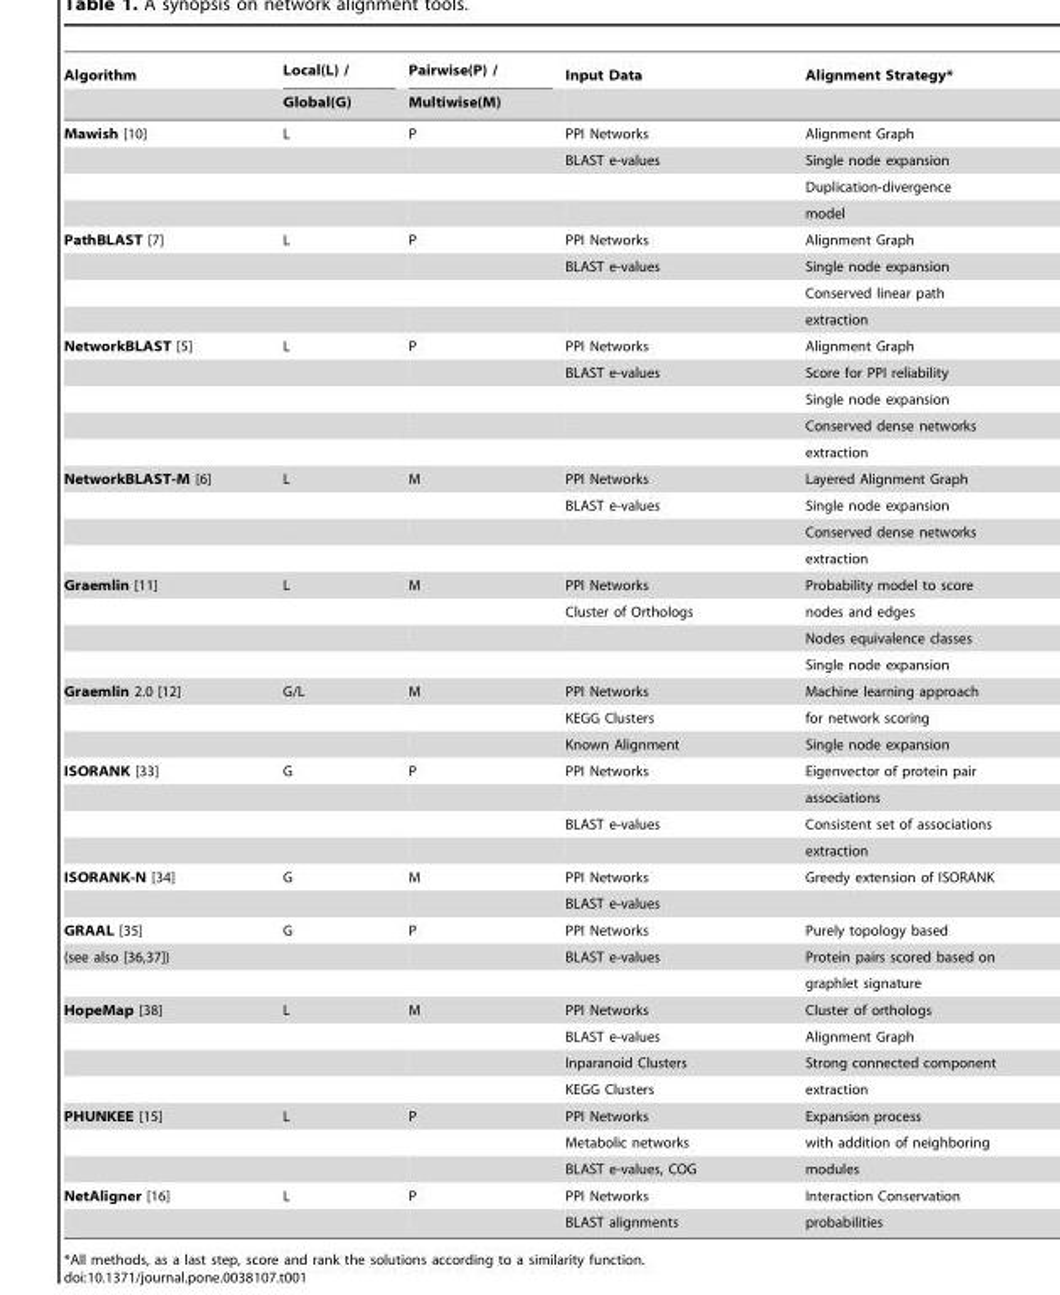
<table><thead><tr><td rowspan="2">Algorithm</td><td rowspan="2">Local(L) / Global(G)</td><td rowspan="2">Pairwise(P) / Multiwise(M)</td><td rowspan="2">Input Data</td><td rowspan="2">Alignment Strategy*</td></tr><tr></tr></thead><tbody><tr><td rowspan="4">Mawish [10]</td><td>L</td><td>P</td><td>PPI Networks</td><td>Alignment Graph</td></tr><tr><td></td><td></td><td>BLAST e-values</td><td>Single node expansion</td></tr><tr><td></td><td></td><td></td><td>Duplication-divergence</td></tr><tr><td></td><td></td><td></td><td>model</td></tr><tr><td rowspan="4">PathBLAST [7]</td><td>L</td><td>P</td><td>PPI Networks</td><td>Alignment Graph</td></tr><tr><td></td><td></td><td>BLAST e-values</td><td>Single node expansion</td></tr><tr><td></td><td></td><td></td><td>Conserved linear path</td></tr><tr><td></td><td></td><td></td><td>extraction</td></tr><tr><td rowspan="5">NetworkBLAST [5]</td><td>L</td><td>P</td><td>PPI Networks</td><td>Alignment Graph</td></tr><tr><td></td><td></td><td>BLAST e-values</td><td>Score for PPI reliability</td></tr><tr><td></td><td></td><td></td><td>Single node expansion</td></tr><tr><td></td><td></td><td></td><td>Conserved dense networks</td></tr><tr><td></td><td></td><td></td><td>extraction</td></tr><tr><td rowspan="4">NetworkBLAST-M [6]</td><td>L</td><td>M</td><td>PPI Networks</td><td>Layered Alignment Graph</td></tr><tr><td></td><td></td><td>BLAST e-values</td><td>Single node expansion</td></tr><tr><td></td><td></td><td></td><td>Conserved dense networks</td></tr><tr><td></td><td></td><td></td><td>extraction</td></tr><tr><td rowspan="4">Graemlin [11]</td><td>L</td><td>M</td><td>PPI Networks</td><td>Probability model to score</td></tr><tr><td></td><td></td><td>Cluster of Orthologs</td><td>nodes and edges</td></tr><tr><td></td><td></td><td></td><td>Nodes equivalence classes</td></tr><tr><td></td><td></td><td></td><td>Single node expansion</td></tr><tr><td rowspan="3">Graemlin 2.0 [12]</td><td>G/L</td><td>M</td><td>PPI Networks</td><td>Machine learning approach</td></tr><tr><td></td><td></td><td>KEGG Clusters</td><td>for network scoring</td></tr><tr><td></td><td></td><td>Known Alignment</td><td>Single node expansion</td></tr><tr><td rowspan="4">ISORANK [33]</td><td>G</td><td>P</td><td>PPI Networks</td><td>Eigenvector of protein pair</td></tr><tr><td></td><td></td><td></td><td>associations</td></tr><tr><td></td><td></td><td>BLAST e-values</td><td>Consistent set of associations</td></tr><tr><td></td><td></td><td></td><td>extraction</td></tr><tr><td rowspan="2">ISORANK-N [34]</td><td>G</td><td>M</td><td>PPI Networks</td><td>Greedy extension of ISORANK</td></tr><tr><td></td><td></td><td>BLAST e-values</td><td></td></tr><tr><td>GRAAL [35]</td><td>G</td><td>P</td><td>PPI Networks</td><td>Purely topology based</td></tr><tr><td rowspan="2">(see also [36,37])</td><td></td><td></td><td>BLAST e-values</td><td>Protein pairs scored based on</td></tr><tr><td></td><td></td><td></td><td>graphlet signature</td></tr><tr><td rowspan="4">HopeMap [38]</td><td>L</td><td>M</td><td>PPI Networks</td><td>Cluster of orthologs</td></tr><tr><td></td><td></td><td>BLAST e-values</td><td>Alignment Graph</td></tr><tr><td></td><td></td><td>Inparanoid Clusters</td><td>Strong connected component</td></tr><tr><td></td><td></td><td>KEGG Clusters</td><td>extraction</td></tr><tr><td rowspan="3">PHUNKEE [15]</td><td>L</td><td>P</td><td>PPI Networks</td><td>Expansion process</td></tr><tr><td></td><td></td><td>Metabolic networks</td><td>with addition of neighboring</td></tr><tr><td></td><td></td><td>BLAST e-values, COG</td><td>modules</td></tr><tr><td rowspan="2">NetAligner [16]</td><td>L</td><td>P</td><td>PPI Networks</td><td>Interaction Conservation</td></tr><tr><td></td><td></td><td>BLAST alignments</td><td>probabilities</td></tr></tbody></table>